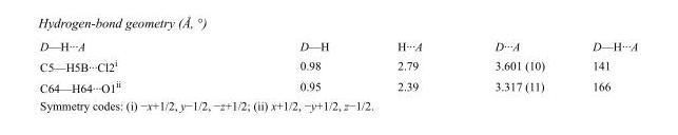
<table><tbody><tr><td>D—H···A</td><td>D—H</td><td>H···A</td><td>D···A</td><td>D—H···A</td></tr><tr><td>C5—H5B···Cl2<sup>i</sup></td><td>0.98</td><td>2.79</td><td>3.601 (10)</td><td>141</td></tr><tr><td>C64—H64···O1<sup>ii</sup></td><td>0.95</td><td>2.39</td><td>3.317 (11)</td><td>166</td></tr></tbody></table>